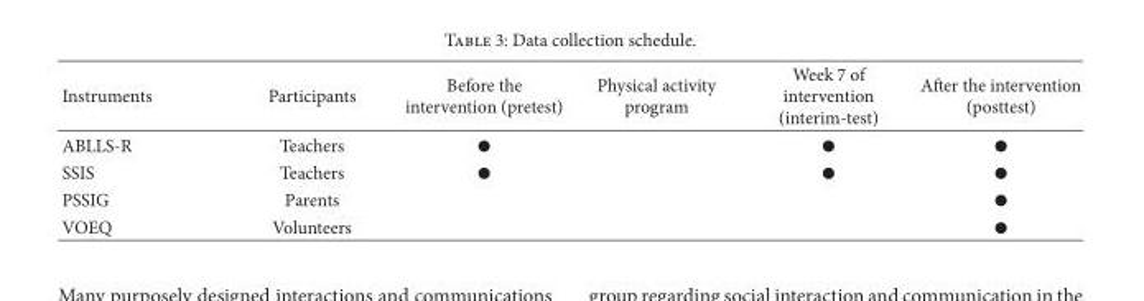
<table><thead><tr><td>Instruments</td><td>Participants</td><td>Before the intervention (pretest)</td><td>Physical activity program</td><td>Week 7 of intervention (interim-test)</td><td>After the intervention (posttest)</td></tr></thead><tbody><tr><td>ABLLS-R</td><td>Teachers</td><td>●</td><td></td><td>●</td><td>●</td></tr><tr><td>SSIS</td><td>Teachers</td><td>●</td><td></td><td>●</td><td>●</td></tr><tr><td>PSSIG</td><td>Parents</td><td></td><td></td><td></td><td>●</td></tr><tr><td>VOEQ</td><td>Volunteers</td><td></td><td></td><td></td><td>●</td></tr></tbody></table>